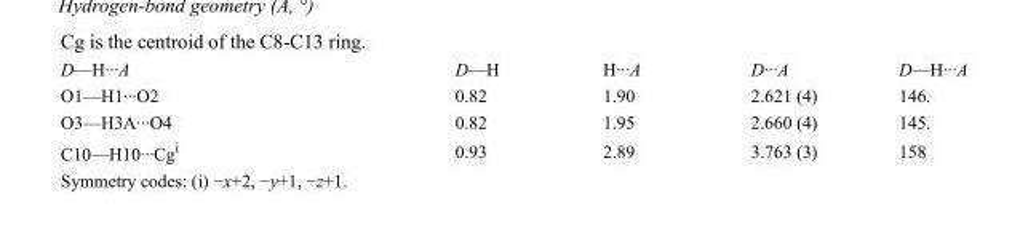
<table><tbody><tr><td>D—H···A</td><td>D—H</td><td>H···A</td><td>D···A</td><td>D—H···A</td></tr><tr><td>O1—H1···O2</td><td>0.82</td><td>1.90</td><td>2.621 (4)</td><td>146.</td></tr><tr><td>O3—H3A···O4</td><td>0.82</td><td>1.95</td><td>2.660 (4)</td><td>145.</td></tr><tr><td>C10—H10···Cg<sup>i</sup></td><td>0.93</td><td>2.89</td><td>3.763 (3)</td><td>158</td></tr></tbody></table>